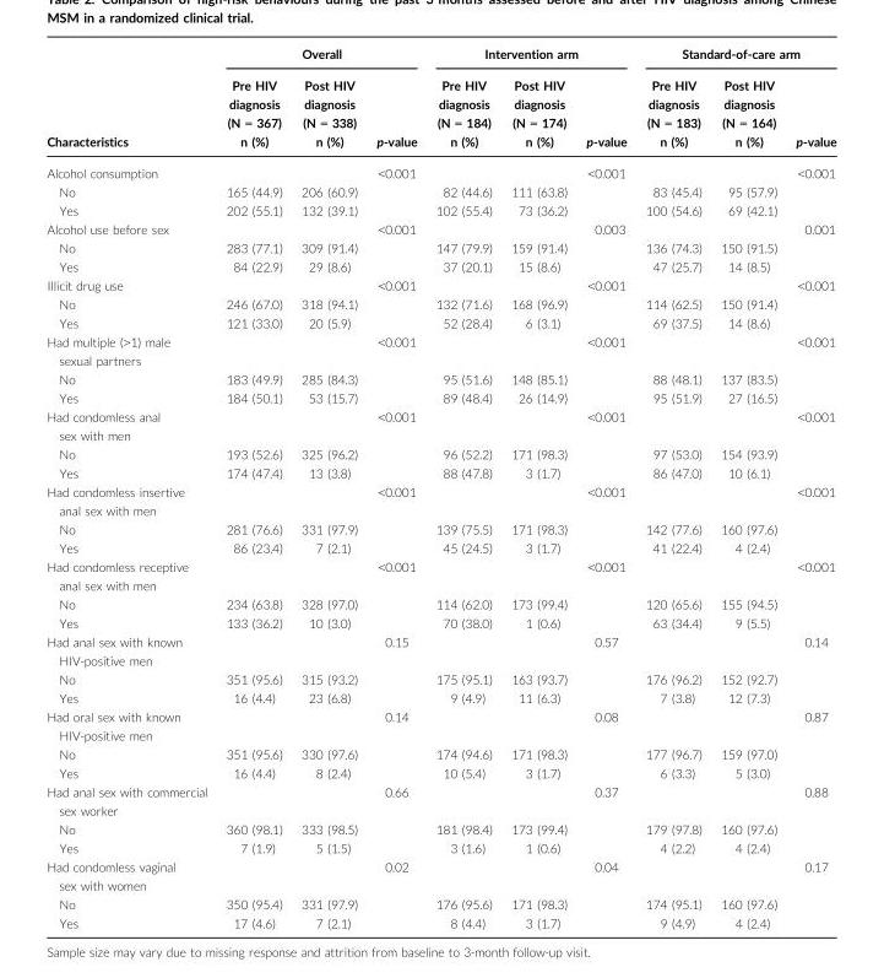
<table><thead><tr><td rowspan="2">Characteristics</td><td colspan="3">Overall</td><td colspan="3">Intervention arm</td><td colspan="3">Standard-of-care arm</td></tr><tr><td>Pre HIV diagnosis (N = 367) n (%)</td><td>Post HIV diagnosis (N = 338) n (%)</td><td>p-value</td><td>Pre HIV diagnosis (N = 184) n (%)</td><td>Post HIV diagnosis (N = 174) n (%)</td><td>p-value</td><td>Pre HIV diagnosis (N = 183) n (%)</td><td>Post HIV diagnosis (N = 164) n (%)</td><td>p-value</td></tr></thead><tbody><tr><td>Alcohol consumption</td><td></td><td></td><td>&lt;0.001</td><td></td><td></td><td>&lt;0.001</td><td></td><td></td><td>&lt;0.001</td></tr><tr><td>No</td><td>165 (44.9)</td><td>206 (60.9)</td><td></td><td>82 (44.6)</td><td>111 (63.8)</td><td></td><td>83 (45.4)</td><td>95 (57.9)</td><td></td></tr><tr><td>Yes</td><td>202 (55.1)</td><td>132 (39.1)</td><td></td><td>102 (55.4)</td><td>73 (36.2)</td><td></td><td>100 (54.6)</td><td>69 (42.1)</td><td></td></tr><tr><td>Alcohol use before sex</td><td></td><td></td><td>&lt;0.001</td><td></td><td></td><td>0.003</td><td></td><td></td><td>0.001</td></tr><tr><td>No</td><td>283 (77.1)</td><td>309 (91.4)</td><td></td><td>147 (79.9)</td><td>159 (91.4)</td><td></td><td>136 (74.3)</td><td>150 (91.5)</td><td></td></tr><tr><td>Yes</td><td>84 (22.9)</td><td>29 (8.6)</td><td></td><td>37 (20.1)</td><td>15 (8.6)</td><td></td><td>47 (25.7)</td><td>14 (8.5)</td><td></td></tr><tr><td>Illicit drug use</td><td></td><td></td><td>&lt;0.001</td><td></td><td></td><td>&lt;0.001</td><td></td><td></td><td>&lt;0.001</td></tr><tr><td>No</td><td>246 (67.0)</td><td>318 (94.1)</td><td></td><td>132 (71.6)</td><td>168 (96.9)</td><td></td><td>114 (62.5)</td><td>150 (91.4)</td><td></td></tr><tr><td>Yes</td><td>121 (33.0)</td><td>20 (5.9)</td><td></td><td>52 (28.4)</td><td>6 (3.1)</td><td></td><td>69 (37.5)</td><td>14 (8.6)</td><td></td></tr><tr><td>Had multiple (&gt;1) male sexual partners</td><td></td><td></td><td>&lt;0.001</td><td></td><td></td><td>&lt;0.001</td><td></td><td></td><td>&lt;0.001</td></tr><tr><td>No</td><td>183 (49.9)</td><td>285 (84.3)</td><td></td><td>95 (51.6)</td><td>148 (85.1)</td><td></td><td>88 (48.1)</td><td>137 (83.5)</td><td></td></tr><tr><td>Yes</td><td>184 (50.1)</td><td>53 (15.7)</td><td></td><td>89 (48.4)</td><td>26 (14.9)</td><td></td><td>95 (51.9)</td><td>27 (16.5)</td><td></td></tr><tr><td>Had condomless anal sex with men</td><td></td><td></td><td>&lt;0.001</td><td></td><td></td><td>&lt;0.001</td><td></td><td></td><td>&lt;0.001</td></tr><tr><td>No</td><td>193 (52.6)</td><td>325 (96.2)</td><td></td><td>96 (52.2)</td><td>171 (98.3)</td><td></td><td>97 (53.0)</td><td>154 (93.9)</td><td></td></tr><tr><td>Yes</td><td>174 (47.4)</td><td>13 (3.8)</td><td></td><td>88 (47.8)</td><td>3 (1.7)</td><td></td><td>86 (47.0)</td><td>10 (6.1)</td><td></td></tr><tr><td>Had condomless insertive anal sex with men</td><td></td><td></td><td>&lt;0.001</td><td></td><td></td><td>&lt;0.001</td><td></td><td></td><td>&lt;0.001</td></tr><tr><td>No</td><td>281 (76.6)</td><td>331 (97.9)</td><td></td><td>139 (75.5)</td><td>171 (98.3)</td><td></td><td>142 (77.6)</td><td>160 (97.6)</td><td></td></tr><tr><td>Yes</td><td>86 (23.4)</td><td>7 (2.1)</td><td></td><td>45 (24.5)</td><td>3 (1.7)</td><td></td><td>41 (22.4)</td><td>4 (2.4)</td><td></td></tr><tr><td>Had condomless receptive anal sex with men</td><td></td><td></td><td>&lt;0.001</td><td></td><td></td><td>&lt;0.001</td><td></td><td></td><td>&lt;0.001</td></tr><tr><td>No</td><td>234 (63.8)</td><td>328 (97.0)</td><td></td><td>114 (62.0)</td><td>173 (99.4)</td><td></td><td>120 (65.6)</td><td>155 (94.5)</td><td></td></tr><tr><td>Yes</td><td>133 (36.2)</td><td>10 (3.0)</td><td></td><td>70 (38.0)</td><td>1 (0.6)</td><td></td><td>63 (34.4)</td><td>9 (5.5)</td><td></td></tr><tr><td>Had anal sex with known HIV-positive men</td><td></td><td></td><td>0.15</td><td></td><td></td><td>0.57</td><td></td><td></td><td>0.14</td></tr><tr><td>No</td><td>351 (95.6)</td><td>315 (93.2)</td><td></td><td>175 (95.1)</td><td>163 (93.7)</td><td></td><td>176 (96.2)</td><td>152 (92.7)</td><td></td></tr><tr><td>Yes</td><td>16 (4.4)</td><td>23 (6.8)</td><td></td><td>9 (4.9)</td><td>11 (6.3)</td><td></td><td>7 (3.8)</td><td>12 (7.3)</td><td></td></tr><tr><td>Had oral sex with known HIV-positive men</td><td></td><td></td><td>0.14</td><td></td><td></td><td>0.08</td><td></td><td></td><td>0.87</td></tr><tr><td>No</td><td>351 (95.6)</td><td>330 (97.6)</td><td></td><td>174 (94.6)</td><td>171 (98.3)</td><td></td><td>177 (96.7)</td><td>159 (97.0)</td><td></td></tr><tr><td>Yes</td><td>16 (4.4)</td><td>8 (2.4)</td><td></td><td>10 (5.4)</td><td>3 (1.7)</td><td></td><td>6 (3.3)</td><td>5 (3.0)</td><td></td></tr><tr><td>Had anal sex with commercial sex worker</td><td></td><td></td><td>0.66</td><td></td><td></td><td>0.37</td><td></td><td></td><td>0.88</td></tr><tr><td>No</td><td>360 (98.1)</td><td>333 (98.5)</td><td></td><td>181 (98.4)</td><td>173 (99.4)</td><td></td><td>179 (97.8)</td><td>160 (97.6)</td><td></td></tr><tr><td>Yes</td><td>7 (1.9)</td><td>5 (1.5)</td><td></td><td>3 (1.6)</td><td>1 (0.6)</td><td></td><td>4 (2.2)</td><td>4 (2.4)</td><td></td></tr><tr><td>Had condomless vaginal sex with women</td><td></td><td></td><td>0.02</td><td></td><td></td><td>0.04</td><td></td><td></td><td>0.17</td></tr><tr><td>No</td><td>350 (95.4)</td><td>331 (97.9)</td><td></td><td>176 (95.6)</td><td>171 (98.3)</td><td></td><td>174 (95.1)</td><td>160 (97.6)</td><td></td></tr><tr><td>Yes</td><td>17 (4.6)</td><td>7 (2.1)</td><td></td><td>8 (4.4)</td><td>3 (1.7)</td><td></td><td>9 (4.9)</td><td>4 (2.4)</td><td></td></tr></tbody></table>